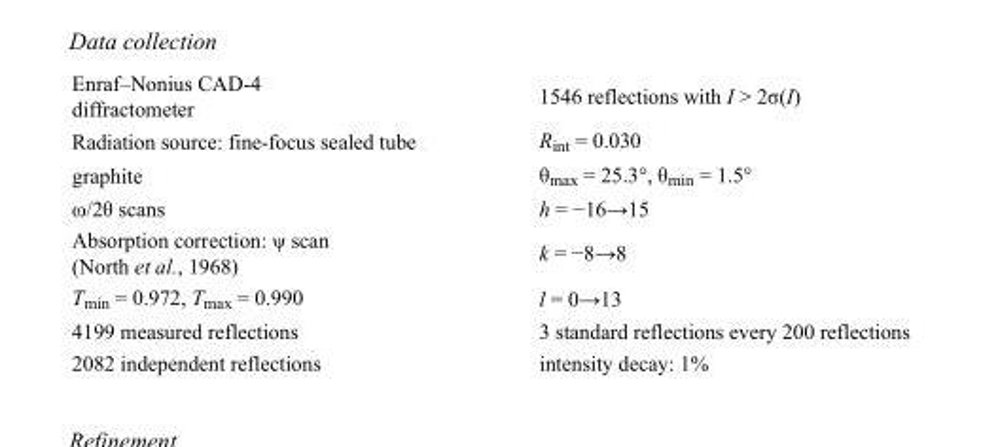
<table><tbody><tr><td>Enraf–Nonius CAD-4 diffractometer</td><td>1546 reflections with I &gt; 2σ(I)</td></tr><tr><td>Radiation source: fine-focus sealed tube</td><td>R<sub>int</sub> = 0.030</td></tr><tr><td>graphite</td><td>θ<sub>max</sub> = 25.3°, θ<sub>min</sub> = 1.5°</td></tr><tr><td>ω/2θ scans</td><td>h = −16→15</td></tr><tr><td>Absorption correction: ψ scan (North et al., 1968)</td><td>k = −8→8</td></tr><tr><td>T<sub>min</sub> = 0.972, T<sub>max</sub> = 0.990</td><td>l = 0→13</td></tr><tr><td>4199 measured reflections</td><td>3 standard reflections every 200 reflections</td></tr><tr><td>2082 independent reflections</td><td>intensity decay: 1%</td></tr></tbody></table>